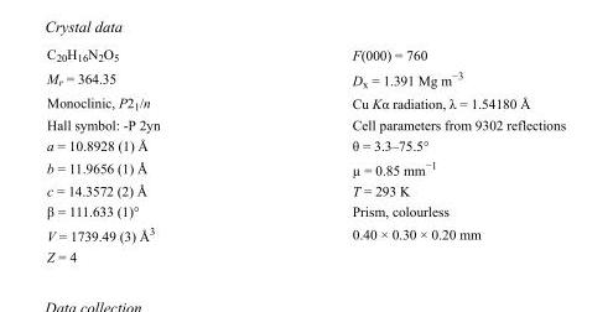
<table><tbody><tr><td>C<sub>20</sub>H<sub>16</sub>N<sub>2</sub>O<sub>5</sub></td><td>F(000) = 760</td></tr><tr><td>M<sub>r</sub> = 364.35</td><td>D<sub>x</sub> = 1.391 Mg m<sup>−3</sup></td></tr><tr><td>Monoclinic, P2<sub>1</sub>/n</td><td>Cu Kα radiation, λ = 1.54180 Å</td></tr><tr><td>Hall symbol: -P 2yn</td><td>Cell parameters from 9302 reflections</td></tr><tr><td>a = 10.8928 (1) Å</td><td>θ = 3.3–75.5°</td></tr><tr><td>b = 11.9656 (1) Å</td><td>µ = 0.85 mm<sup>−1</sup></td></tr><tr><td>c = 14.3572 (2) Å</td><td>T = 293 K</td></tr><tr><td>β = 111.633 (1)°</td><td>Prism, colourless</td></tr><tr><td>V = 1739.49 (3) Å<sup>3</sup></td><td>0.40 × 0.30 × 0.20 mm</td></tr><tr><td>Z = 4</td><td></td></tr></tbody></table>